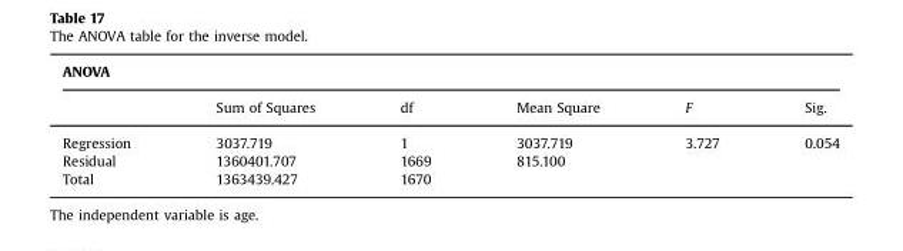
<table><thead><tr><td colspan="6">ANOVA</td></tr><tr><td></td><td>Sum of Squares</td><td>df</td><td>Mean Square</td><td>F</td><td>Sig.</td></tr></thead><tbody><tr><td>Regression</td><td>3037.719</td><td>1</td><td>3037.719</td><td>3.727</td><td>0.054</td></tr><tr><td>Residual</td><td>1360401.707</td><td>1669</td><td>815.100</td><td></td><td></td></tr><tr><td>Total</td><td>1363439.427</td><td>1670</td><td></td><td></td><td></td></tr></tbody></table>